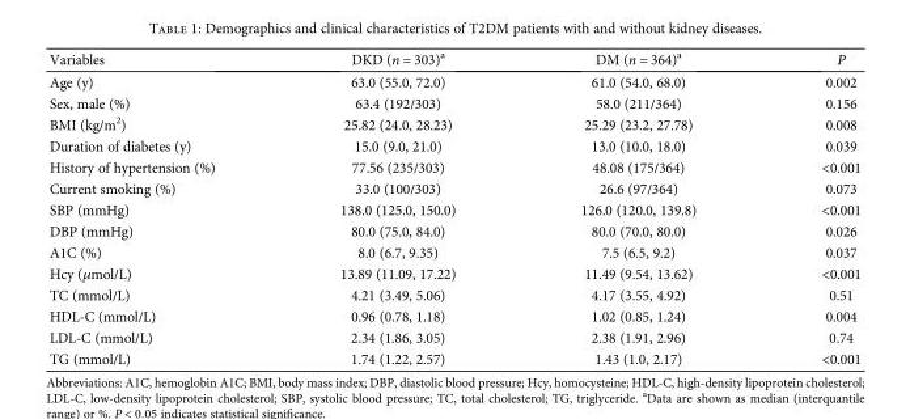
<table><thead><tr><td>Variables</td><td>DKD (n = 303)<sup>a</sup></td><td>DM (n = 364)<sup>a</sup></td><td>P</td></tr></thead><tbody><tr><td>Age (y)</td><td>63.0 (55.0, 72.0)</td><td>61.0 (54.0, 68.0)</td><td>0.002</td></tr><tr><td>Sex, male (%)</td><td>63.4 (192/303)</td><td>58.0 (211/364)</td><td>0.156</td></tr><tr><td>BMI (kg/m<sup>2</sup>)</td><td>25.82 (24.0, 28.23)</td><td>25.29 (23.2, 27.78)</td><td>0.008</td></tr><tr><td>Duration of diabetes (y)</td><td>15.0 (9.0, 21.0)</td><td>13.0 (10.0, 18.0)</td><td>0.039</td></tr><tr><td>History of hypertension (%)</td><td>77.56 (235/303)</td><td>48.08 (175/364)</td><td>&lt;0.001</td></tr><tr><td>Current smoking (%)</td><td>33.0 (100/303)</td><td>26.6 (97/364)</td><td>0.073</td></tr><tr><td>SBP (mmHg)</td><td>138.0 (125.0, 150.0)</td><td>126.0 (120.0, 139.8)</td><td>&lt;0.001</td></tr><tr><td>DBP (mmHg)</td><td>80.0 (75.0, 84.0)</td><td>80.0 (70.0, 80.0)</td><td>0.026</td></tr><tr><td>A1C (%)</td><td>8.0 (6.7, 9.35)</td><td>7.5 (6.5, 9.2)</td><td>0.037</td></tr><tr><td>Hcy (μmol/L)</td><td>13.89 (11.09, 17.22)</td><td>11.49 (9.54, 13.62)</td><td>&lt;0.001</td></tr><tr><td>TC (mmol/L)</td><td>4.21 (3.49, 5.06)</td><td>4.17 (3.55, 4.92)</td><td>0.51</td></tr><tr><td>HDL-C (mmol/L)</td><td>0.96 (0.78, 1.18)</td><td>1.02 (0.85, 1.24)</td><td>0.004</td></tr><tr><td>LDL-C (mmol/L)</td><td>2.34 (1.86, 3.05)</td><td>2.38 (1.91, 2.96)</td><td>0.74</td></tr><tr><td>TG (mmol/L)</td><td>1.74 (1.22, 2.57)</td><td>1.43 (1.0, 2.17)</td><td>&lt;0.001</td></tr></tbody></table>